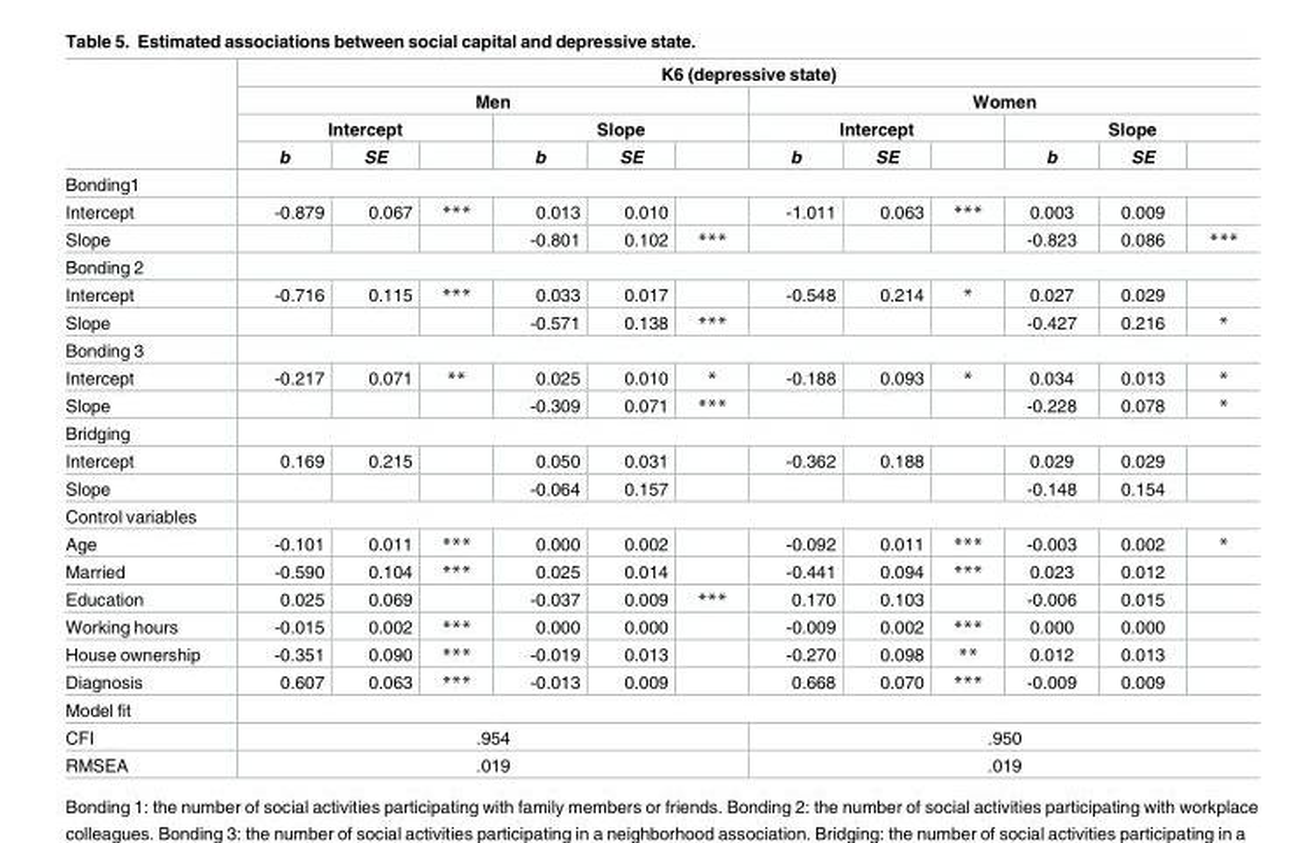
<table><thead><tr><td rowspan="4"></td><td colspan="12">K6 (depressive state)</td></tr><tr><td colspan="6">Men</td><td colspan="6">Women</td></tr><tr><td colspan="3">Intercept</td><td colspan="3">Slope</td><td colspan="3">Intercept</td><td colspan="3">Slope</td></tr><tr><td>b</td><td>SE</td><td></td><td>b</td><td>SE</td><td></td><td>b</td><td>SE</td><td></td><td>b</td><td>SE</td><td></td></tr></thead><tbody><tr><td colspan="13">Bonding1</td></tr><tr><td>Intercept</td><td>-0.879</td><td>0.067</td><td>***</td><td>0.013</td><td>0.010</td><td></td><td>-1.011</td><td>0.063</td><td>***</td><td>0.003</td><td>0.009</td><td></td></tr><tr><td>Slope</td><td></td><td></td><td></td><td>-0.801</td><td>0.102</td><td>***</td><td></td><td></td><td></td><td>-0.823</td><td>0.086</td><td>***</td></tr><tr><td colspan="13">Bonding 2</td></tr><tr><td>Intercept</td><td>-0.716</td><td>0.115</td><td>***</td><td>0.033</td><td>0.017</td><td></td><td>-0.548</td><td>0.214</td><td>*</td><td>0.027</td><td>0.029</td><td></td></tr><tr><td>Slope</td><td></td><td></td><td></td><td>-0.571</td><td>0.138</td><td>***</td><td></td><td></td><td></td><td>-0.427</td><td>0.216</td><td>*</td></tr><tr><td colspan="13">Bonding 3</td></tr><tr><td>Intercept</td><td>-0.217</td><td>0.071</td><td>**</td><td>0.025</td><td>0.010</td><td>*</td><td>-0.188</td><td>0.093</td><td>*</td><td>0.034</td><td>0.013</td><td>*</td></tr><tr><td>Slope</td><td></td><td></td><td></td><td>-0.309</td><td>0.071</td><td>***</td><td></td><td></td><td></td><td>-0.228</td><td>0.078</td><td>*</td></tr><tr><td colspan="13">Bridging</td></tr><tr><td>Intercept</td><td>0.169</td><td>0.215</td><td></td><td>0.050</td><td>0.031</td><td></td><td>-0.362</td><td>0.188</td><td></td><td>0.029</td><td>0.029</td><td></td></tr><tr><td>Slope</td><td></td><td></td><td></td><td>-0.064</td><td>0.157</td><td></td><td></td><td></td><td></td><td>-0.148</td><td>0.154</td><td></td></tr><tr><td colspan="13">Control variables</td></tr><tr><td>Age</td><td>-0.101</td><td>0.011</td><td>***</td><td>0.000</td><td>0.002</td><td></td><td>-0.092</td><td>0.011</td><td>***</td><td>-0.003</td><td>0.002</td><td>*</td></tr><tr><td>Married</td><td>-0.590</td><td>0.104</td><td>***</td><td>0.025</td><td>0.014</td><td></td><td>-0.441</td><td>0.094</td><td>***</td><td>0.023</td><td>0.012</td><td></td></tr><tr><td>Education</td><td>0.025</td><td>0.069</td><td></td><td>-0.037</td><td>0.009</td><td>***</td><td>0.170</td><td>0.103</td><td></td><td>-0.006</td><td>0.015</td><td></td></tr><tr><td>Working hours</td><td>-0.015</td><td>0.002</td><td>***</td><td>0.000</td><td>0.000</td><td></td><td>-0.009</td><td>0.002</td><td>***</td><td>0.000</td><td>0.000</td><td></td></tr><tr><td>House ownership</td><td>-0.351</td><td>0.090</td><td>***</td><td>-0.019</td><td>0.013</td><td></td><td>-0.270</td><td>0.098</td><td>**</td><td>0.012</td><td>0.013</td><td></td></tr><tr><td>Diagnosis</td><td>0.607</td><td>0.063</td><td>***</td><td>-0.013</td><td>0.009</td><td></td><td>0.668</td><td>0.070</td><td>***</td><td>-0.009</td><td>0.009</td><td></td></tr><tr><td colspan="13">Model fit</td></tr><tr><td>CFI</td><td colspan="6">.954</td><td colspan="6">.950</td></tr><tr><td>RMSEA</td><td colspan="6">.019</td><td colspan="6">.019</td></tr></tbody></table>